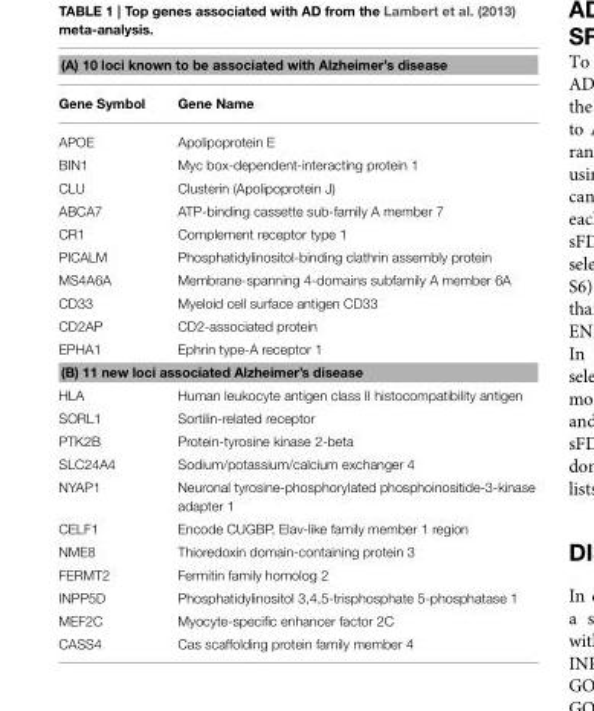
<table><thead><tr><td colspan="2">(A) 10 loci known to be associated with Alzheimer’s disease</td></tr><tr><td>Gene Symbol</td><td>Gene Name</td></tr></thead><tbody><tr><td>APOE</td><td>Apolipoprotein E</td></tr><tr><td>BIN1</td><td>Myc box-dependent-interacting protein 1</td></tr><tr><td>CLU</td><td>Clusterin (Apolipoprotein J)</td></tr><tr><td>ABCA7</td><td>ATP-binding cassette sub-family A member 7</td></tr><tr><td>CR1</td><td>Complement receptor type 1</td></tr><tr><td>PICALM</td><td>Phosphatidylinositol-binding clathrin assembly protein</td></tr><tr><td>MS4A6A</td><td>Membrane-spanning 4-domains subfamily A member 6A</td></tr><tr><td>CD33</td><td>Myeloid cell surface antigen CD33</td></tr><tr><td>CD2AP</td><td>CD2-associated protein</td></tr><tr><td>EPHA1</td><td>Ephrin type-A receptor 1</td></tr><tr><td colspan="2">(B) 11 new loci associated Alzheimer’s disease</td></tr><tr><td>HLA</td><td>Human leukocyte antigen class II histocompatibility antigen</td></tr><tr><td>SORL1</td><td>Sortilin-related receptor</td></tr><tr><td>PTK2B</td><td>Protein-tyrosine kinase 2-beta</td></tr><tr><td>SLC24A4</td><td>Sodium/potassium/calcium exchanger 4</td></tr><tr><td>NYAP1</td><td>Neuronal tyrosine-phosphorylated phosphoinositide-3-kinase adapter 1</td></tr><tr><td>CELF1</td><td>Encode CUGBP, Elav-like family member 1 region</td></tr><tr><td>NME8</td><td>Thioredoxin domain-containing protein 3</td></tr><tr><td>FERMT2</td><td>Fermitin family homolog 2</td></tr><tr><td>INPP5D</td><td>Phosphatidylinositol 3,4,5-trisphosphate 5-phosphatase 1</td></tr><tr><td>MEF2C</td><td>Myocyte-specific enhancer factor 2C</td></tr><tr><td>CASS4</td><td>Cas scaffolding protein family member 4</td></tr></tbody></table>